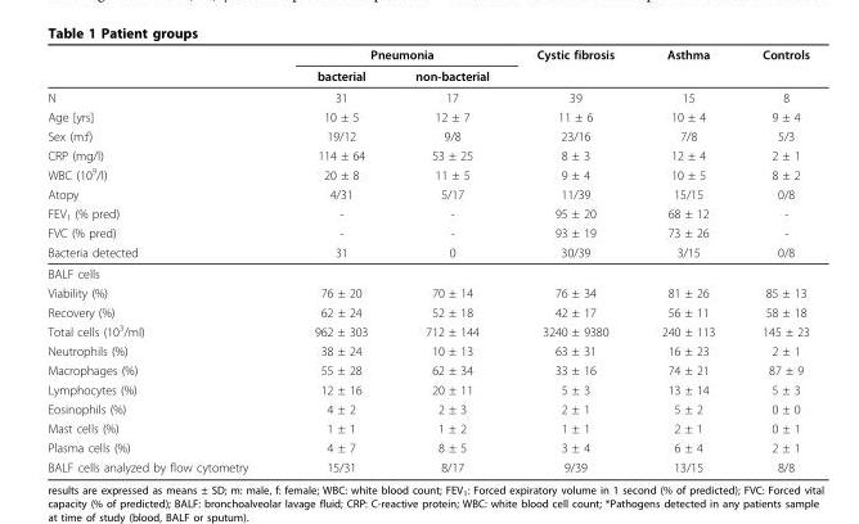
<table><thead><tr><td rowspan="2"></td><td colspan="2">Pneumonia</td><td rowspan="2">Cystic fibrosis</td><td rowspan="2">Asthma</td><td rowspan="2">Controls</td></tr><tr><td>bacterial</td><td>non-bacterial</td></tr></thead><tbody><tr><td>N</td><td>31</td><td>17</td><td>39</td><td>15</td><td>8</td></tr><tr><td>Age [yrs]</td><td>10 ± 5</td><td>12 ± 7</td><td>11 ± 6</td><td>10 ± 4</td><td>9 ± 4</td></tr><tr><td>Sex (m:f)</td><td>19/12</td><td>9/8</td><td>23/16</td><td>7/8</td><td>5/3</td></tr><tr><td>CRP (mg/l)</td><td>114 ± 64</td><td>53 ± 25</td><td>8 ± 3</td><td>12 ± 4</td><td>2 ± 1</td></tr><tr><td>WBC (10<sup>9</sup>/l)</td><td>20 ± 8</td><td>11 ± 5</td><td>9 ± 4</td><td>10 ± 5</td><td>8 ± 2</td></tr><tr><td>Atopy</td><td>4/31</td><td>5/17</td><td>11/39</td><td>15/15</td><td>0/8</td></tr><tr><td>FEV<sub>1</sub> (% pred)</td><td>-</td><td>-</td><td>95 ± 20</td><td>68 ± 12</td><td>-</td></tr><tr><td>FVC (% pred)</td><td>-</td><td>-</td><td>93 ± 19</td><td>73 ± 26</td><td>-</td></tr><tr><td>Bacteria detected</td><td>31</td><td>0</td><td>30/39</td><td>3/15</td><td>0/8</td></tr><tr><td colspan="6">BALF cells</td></tr><tr><td>Viability (%)</td><td>76 ± 20</td><td>70 ± 14</td><td>76 ± 34</td><td>81 ± 26</td><td>85 ± 13</td></tr><tr><td>Recovery (%)</td><td>62 ± 24</td><td>52 ± 18</td><td>42 ± 17</td><td>56 ± 11</td><td>58 ± 18</td></tr><tr><td>Total cells (10<sup>3</sup>/ml)</td><td>962 ± 303</td><td>712 ± 144</td><td>3240 ± 9380</td><td>240 ± 113</td><td>145 ± 23</td></tr><tr><td>Neutrophils (%)</td><td>38 ± 24</td><td>10 ± 13</td><td>63 ± 31</td><td>16 ± 23</td><td>2 ± 1</td></tr><tr><td>Macrophages (%)</td><td>55 ± 28</td><td>62 ± 34</td><td>33 ± 16</td><td>74 ± 21</td><td>87 ± 9</td></tr><tr><td>Lymphocytes (%)</td><td>12 ± 16</td><td>20 ± 11</td><td>5 ± 3</td><td>13 ± 14</td><td>5 ± 3</td></tr><tr><td>Eosinophils (%)</td><td>4 ± 2</td><td>2 ± 3</td><td>2 ± 1</td><td>5 ± 2</td><td>0 ± 0</td></tr><tr><td>Mast cells (%)</td><td>1 ± 1</td><td>1 ± 2</td><td>1 ± 1</td><td>2 ± 1</td><td>0 ± 1</td></tr><tr><td>Plasma cells (%)</td><td>4 ± 7</td><td>8 ± 5</td><td>3 ± 4</td><td>6 ± 4</td><td>2 ± 1</td></tr><tr><td>BALF cells analyzed by flow cytometry</td><td>15/31</td><td>8/17</td><td>9/39</td><td>13/15</td><td>8/8</td></tr></tbody></table>